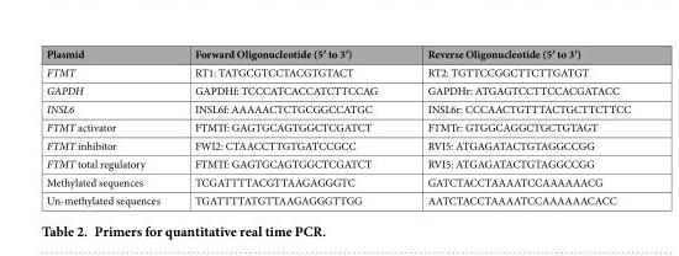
<table><thead><tr><td>Plasmid</td><td>Forward Oligonucleotide (5′ to 3′)</td><td>Reverse Oligonucleotide (5′ to 3′)</td></tr></thead><tbody><tr><td>FTMT</td><td>RT1: TATGCGTCCTACGTGTACT</td><td>RT2: TGTTCCGGCTTCTTGATGT</td></tr><tr><td>GAPDH</td><td>GAPDHf: TCCCATCACCATCTTCCAG</td><td>GAPDHr: ATGAGTCCTTCCACGATACC</td></tr><tr><td>INSL6</td><td>INSL6f: AAAAACTCTGCGGCCATGC</td><td>INSL6r: CCCAACTGTTTACTGCTTCTTCC</td></tr><tr><td>FTMT activator</td><td>FTMTf: GAGTGCAGTGGCTCGATCT</td><td>FTMTr: GTGGCAGGCTGCTGTAGT</td></tr><tr><td>FTMT inhibitor</td><td>FWI2: CTAACCTTGTGATCCGCC</td><td>RVI5: ATGAGATACTGTAGGCCGG</td></tr><tr><td>FTMT total regulatory</td><td>FTMTf: GAGTGCAGTGGCTCGATCT</td><td>RVI5: ATGAGATACTGTAGGCCGG</td></tr><tr><td>Methylated sequences</td><td>TCGATTTTACGTTAAGAGGGTC</td><td>GATCTACCTAAAATCCAAAAAACG</td></tr><tr><td>Un-methylated sequences</td><td>TGATTTTATGTTAAGAGGGTTGG</td><td>AATCTACCTAAAATCCAAAAAACACC</td></tr></tbody></table>